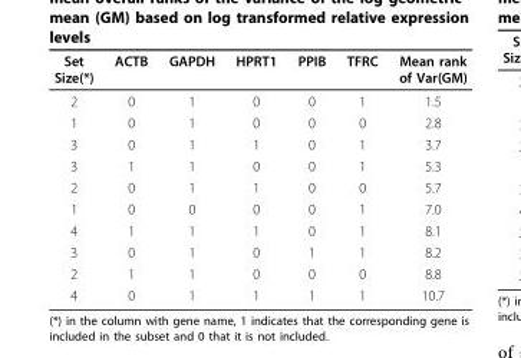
<table><thead><tr><td>Set Size(*)</td><td>ACTB</td><td>GAPDH</td><td>HPRT1</td><td>PPIB</td><td>TFRC</td><td>Mean rank of Var(GM)</td></tr></thead><tbody><tr><td>2</td><td>0</td><td>1</td><td>0</td><td>0</td><td>1</td><td>1.5</td></tr><tr><td>1</td><td>0</td><td>1</td><td>0</td><td>0</td><td>0</td><td>2.8</td></tr><tr><td>3</td><td>0</td><td>1</td><td>1</td><td>0</td><td>1</td><td>3.7</td></tr><tr><td>3</td><td>1</td><td>1</td><td>0</td><td>0</td><td>1</td><td>5.3</td></tr><tr><td>2</td><td>0</td><td>1</td><td>1</td><td>0</td><td>0</td><td>5.7</td></tr><tr><td>1</td><td>0</td><td>0</td><td>0</td><td>0</td><td>1</td><td>7.0</td></tr><tr><td>4</td><td>1</td><td>1</td><td>1</td><td>0</td><td>1</td><td>8.1</td></tr><tr><td>3</td><td>0</td><td>1</td><td>0</td><td>1</td><td>1</td><td>8.2</td></tr><tr><td>2</td><td>1</td><td>1</td><td>0</td><td>0</td><td>0</td><td>8.8</td></tr><tr><td>4</td><td>0</td><td>1</td><td>1</td><td>1</td><td>1</td><td>10.7</td></tr></tbody></table>